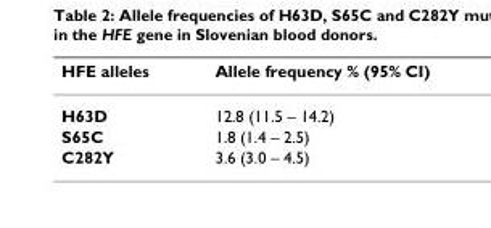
<table><thead><tr><td>HFE alleles</td><td>Allele frequency % (95% CI)</td></tr></thead><tbody><tr><td>H63D</td><td>12.8 (11.5 – 14.2)</td></tr><tr><td>S65C</td><td>1.8 (1.4 – 2.5)</td></tr><tr><td>C282Y</td><td>3.6 (3.0 – 4.5)</td></tr></tbody></table>